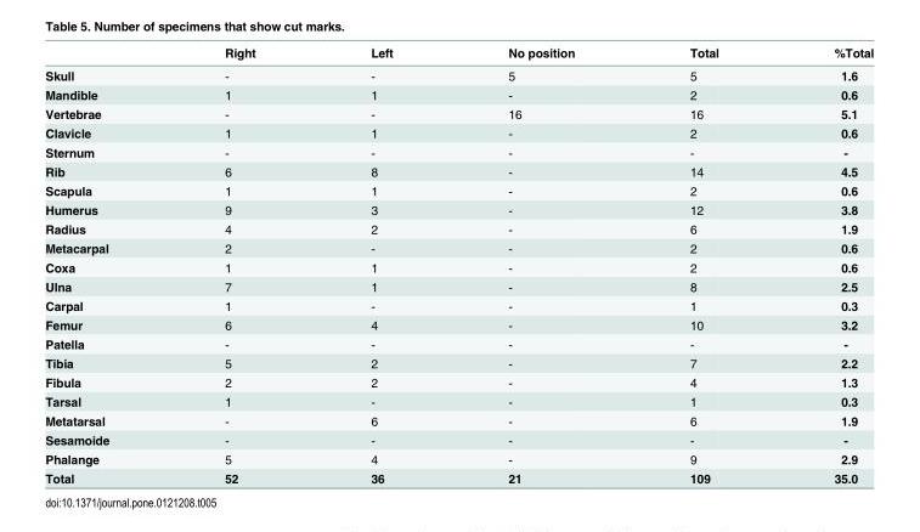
<table><thead><tr><td></td><td>Right</td><td>Left</td><td>No position</td><td>Total</td><td>%Total</td></tr></thead><tbody><tr><td>Skull</td><td>-</td><td>-</td><td>5</td><td>5</td><td>1.6</td></tr><tr><td>Mandible</td><td>1</td><td>1</td><td>-</td><td>2</td><td>0.6</td></tr><tr><td>Vertebrae</td><td>-</td><td>-</td><td>16</td><td>16</td><td>5.1</td></tr><tr><td>Clavicle</td><td>1</td><td>1</td><td>-</td><td>2</td><td>0.6</td></tr><tr><td>Sternum</td><td>-</td><td>-</td><td>-</td><td>-</td><td>-</td></tr><tr><td>Rib</td><td>6</td><td>8</td><td>-</td><td>14</td><td>4.5</td></tr><tr><td>Scapula</td><td>1</td><td>1</td><td>-</td><td>2</td><td>0.6</td></tr><tr><td>Humerus</td><td>9</td><td>3</td><td>-</td><td>12</td><td>3.8</td></tr><tr><td>Radius</td><td>4</td><td>2</td><td>-</td><td>6</td><td>1.9</td></tr><tr><td>Metacarpal</td><td>2</td><td>-</td><td>-</td><td>2</td><td>0.6</td></tr><tr><td>Coxa</td><td>1</td><td>1</td><td>-</td><td>2</td><td>0.6</td></tr><tr><td>Ulna</td><td>7</td><td>1</td><td>-</td><td>8</td><td>2.5</td></tr><tr><td>Carpal</td><td>1</td><td>-</td><td>-</td><td>1</td><td>0.3</td></tr><tr><td>Femur</td><td>6</td><td>4</td><td>-</td><td>10</td><td>3.2</td></tr><tr><td>Patella</td><td>-</td><td>-</td><td>-</td><td>-</td><td>-</td></tr><tr><td>Tibia</td><td>5</td><td>2</td><td>-</td><td>7</td><td>2.2</td></tr><tr><td>Fibula</td><td>2</td><td>2</td><td>-</td><td>4</td><td>1.3</td></tr><tr><td>Tarsal</td><td>1</td><td>-</td><td>-</td><td>1</td><td>0.3</td></tr><tr><td>Metatarsal</td><td>-</td><td>6</td><td>-</td><td>6</td><td>1.9</td></tr><tr><td>Sesamoide</td><td>-</td><td>-</td><td>-</td><td>-</td><td>-</td></tr><tr><td>Phalange</td><td>5</td><td>4</td><td>-</td><td>9</td><td>2.9</td></tr><tr><td>Total</td><td>52</td><td>36</td><td>21</td><td>109</td><td>35.0</td></tr></tbody></table>